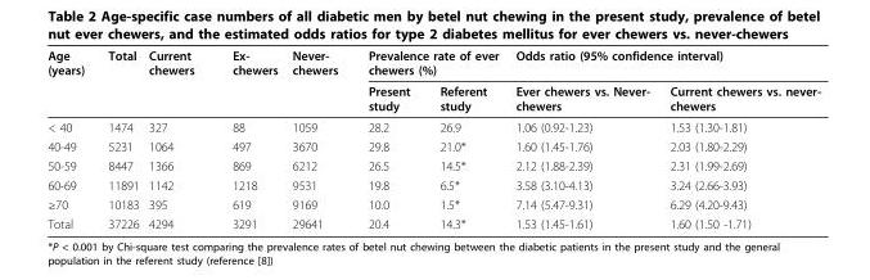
<table><thead><tr><td rowspan="2">Age (years)</td><td rowspan="2">Total</td><td rowspan="2">Current chewers</td><td rowspan="2">Ex- chewers</td><td rowspan="2">Never- chewers</td><td colspan="2">Prevalence rate of ever chewers (%)</td><td colspan="2">Odds ratio (95% confidence interval)</td></tr><tr><td>Present study</td><td>Referent study</td><td>Ever chewers vs. Never- chewers</td><td>Current chewers vs. never- chewers</td></tr></thead><tbody><tr><td>&lt; 40</td><td>1474</td><td>327</td><td>88</td><td>1059</td><td>28.2</td><td>26.9</td><td>1.06 (0.92-1.23)</td><td>1.53 (1.30-1.81)</td></tr><tr><td>40-49</td><td>5231</td><td>1064</td><td>497</td><td>3670</td><td>29.8</td><td>21.0*</td><td>1.60 (1.45-1.76)</td><td>2.03 (1.80-2.29)</td></tr><tr><td>50-59</td><td>8447</td><td>1366</td><td>869</td><td>6212</td><td>26.5</td><td>14.5*</td><td>2.12 (1.88-2.39)</td><td>2.31 (1.99-2.69)</td></tr><tr><td>60-69</td><td>11891</td><td>1142</td><td>1218</td><td>9531</td><td>19.8</td><td>6.5*</td><td>3.58 (3.10-4.13)</td><td>3.24 (2.66-3.93)</td></tr><tr><td>≥70</td><td>10183</td><td>395</td><td>619</td><td>9169</td><td>10.0</td><td>1.5*</td><td>7.14 (5.47-9.31)</td><td>6.29 (4.20-9.43)</td></tr><tr><td>Total</td><td>37226</td><td>4294</td><td>3291</td><td>29641</td><td>20.4</td><td>14.3*</td><td>1.53 (1.45-1.61)</td><td>1.60 (1.50 -1.71)</td></tr></tbody></table>